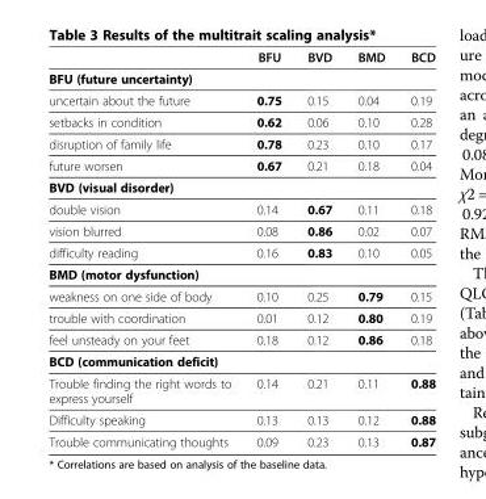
<table><thead><tr><td></td><td>BFU</td><td>BVD</td><td>BMD</td><td>BCD</td></tr></thead><tbody><tr><td colspan="5">BFU (future uncertainty)</td></tr><tr><td>uncertain about the future</td><td>0.75</td><td>0.15</td><td>0.04</td><td>0.19</td></tr><tr><td>setbacks in condition</td><td>0.62</td><td>0.06</td><td>0.10</td><td>0.28</td></tr><tr><td>disruption of family life</td><td>0.78</td><td>0.23</td><td>0.10</td><td>0.17</td></tr><tr><td>future worsen</td><td>0.67</td><td>0.21</td><td>0.18</td><td>0.04</td></tr><tr><td colspan="5">BVD (visual disorder)</td></tr><tr><td>double vision</td><td>0.14</td><td>0.67</td><td>0.11</td><td>0.18</td></tr><tr><td>vision blurred</td><td>0.08</td><td>0.86</td><td>0.02</td><td>0.07</td></tr><tr><td>difficulty reading</td><td>0.16</td><td>0.83</td><td>0.10</td><td>0.05</td></tr><tr><td colspan="5">BMD (motor dysfunction)</td></tr><tr><td>weakness on one side of body</td><td>0.10</td><td>0.25</td><td>0.79</td><td>0.15</td></tr><tr><td>trouble with coordination</td><td>0.01</td><td>0.12</td><td>0.80</td><td>0.19</td></tr><tr><td>feel unsteady on your feet</td><td>0.18</td><td>0.12</td><td>0.86</td><td>0.18</td></tr><tr><td colspan="5">BCD (communication deficit)</td></tr><tr><td>Trouble finding the right words to express yourself</td><td>0.14</td><td>0.21</td><td>0.11</td><td>0.88</td></tr><tr><td>Difficulty speaking</td><td>0.13</td><td>0.13</td><td>0.12</td><td>0.88</td></tr><tr><td>Trouble communicating thoughts</td><td>0.09</td><td>0.23</td><td>0.13</td><td>0.87</td></tr></tbody></table>